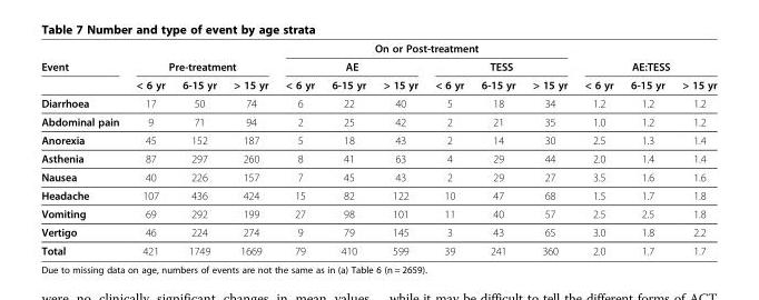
<table><thead><tr><td rowspan="3">Event</td><td></td><td></td><td></td><td colspan="6">On or Post-treatment</td><td></td><td></td><td></td></tr><tr><td colspan="3">Pre-treatment</td><td colspan="3">AE</td><td colspan="3">TESS</td><td colspan="3">AE:TESS</td></tr><tr><td>&lt; 6 yr</td><td>6-15 yr</td><td>&gt; 15 yr</td><td>&lt; 6 yr</td><td>6-15 yr</td><td>&gt; 15 yr</td><td>&lt; 6 yr</td><td>6-15 yr</td><td>&gt; 15 yr</td><td>&lt; 6 yr</td><td>6-15 yr</td><td>&gt; 15 yr</td></tr></thead><tbody><tr><td>Diarrhoea</td><td>17</td><td>50</td><td>74</td><td>6</td><td>22</td><td>40</td><td>5</td><td>18</td><td>34</td><td>1.2</td><td>1.2</td><td>1.2</td></tr><tr><td>Abdominal pain</td><td>9</td><td>71</td><td>94</td><td>2</td><td>25</td><td>42</td><td>2</td><td>21</td><td>35</td><td>1.0</td><td>1.2</td><td>1.2</td></tr><tr><td>Anorexia</td><td>45</td><td>152</td><td>187</td><td>5</td><td>18</td><td>43</td><td>2</td><td>14</td><td>30</td><td>2.5</td><td>1.3</td><td>1.4</td></tr><tr><td>Asthenia</td><td>87</td><td>297</td><td>260</td><td>8</td><td>41</td><td>63</td><td>4</td><td>29</td><td>44</td><td>2.0</td><td>1.4</td><td>1.4</td></tr><tr><td>Nausea</td><td>40</td><td>226</td><td>157</td><td>7</td><td>45</td><td>43</td><td>2</td><td>29</td><td>27</td><td>3.5</td><td>1.6</td><td>1.6</td></tr><tr><td>Headache</td><td>107</td><td>436</td><td>424</td><td>15</td><td>82</td><td>122</td><td>10</td><td>47</td><td>68</td><td>1.5</td><td>1.7</td><td>1.8</td></tr><tr><td>Vomiting</td><td>69</td><td>292</td><td>199</td><td>27</td><td>98</td><td>101</td><td>11</td><td>40</td><td>57</td><td>2.5</td><td>2.5</td><td>1.8</td></tr><tr><td>Vertigo</td><td>46</td><td>224</td><td>274</td><td>9</td><td>79</td><td>145</td><td>3</td><td>43</td><td>65</td><td>3.0</td><td>1.8</td><td>2.2</td></tr><tr><td>Total</td><td>421</td><td>1749</td><td>1669</td><td>79</td><td>410</td><td>599</td><td>39</td><td>241</td><td>360</td><td>2.0</td><td>1.7</td><td>1.7</td></tr></tbody></table>